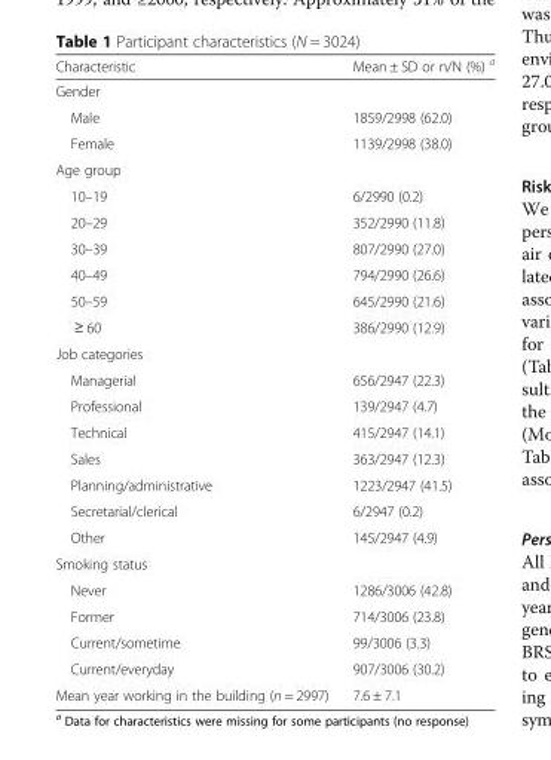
<table><thead><tr><td>Characteristic</td><td>Mean ± SD or n/N (%) <sup>a</sup></td></tr></thead><tbody><tr><td colspan="2">Gender</td></tr><tr><td>Male</td><td>1859/2998 (62.0)</td></tr><tr><td>Female</td><td>1139/2998 (38.0)</td></tr><tr><td colspan="2">Age group</td></tr><tr><td>10–19</td><td>6/2990 (0.2)</td></tr><tr><td>20–29</td><td>352/2990 (11.8)</td></tr><tr><td>30–39</td><td>807/2990 (27.0)</td></tr><tr><td>40–49</td><td>794/2990 (26.6)</td></tr><tr><td>50–59</td><td>645/2990 (21.6)</td></tr><tr><td>≥ 60</td><td>386/2990 (12.9)</td></tr><tr><td colspan="2">Job categories</td></tr><tr><td>Managerial</td><td>656/2947 (22.3)</td></tr><tr><td>Professional</td><td>139/2947 (4.7)</td></tr><tr><td>Technical</td><td>415/2947 (14.1)</td></tr><tr><td>Sales</td><td>363/2947 (12.3)</td></tr><tr><td>Planning/administrative</td><td>1223/2947 (41.5)</td></tr><tr><td>Secretarial/clerical</td><td>6/2947 (0.2)</td></tr><tr><td>Other</td><td>145/2947 (4.9)</td></tr><tr><td colspan="2">Smoking status</td></tr><tr><td>Never</td><td>1286/3006 (42.8)</td></tr><tr><td>Former</td><td>714/3006 (23.8)</td></tr><tr><td>Current/sometime</td><td>99/3006 (3.3)</td></tr><tr><td>Current/everyday</td><td>907/3006 (30.2)</td></tr><tr><td>Mean year working in the building (n = 2997)</td><td>7.6 ± 7.1</td></tr></tbody></table>